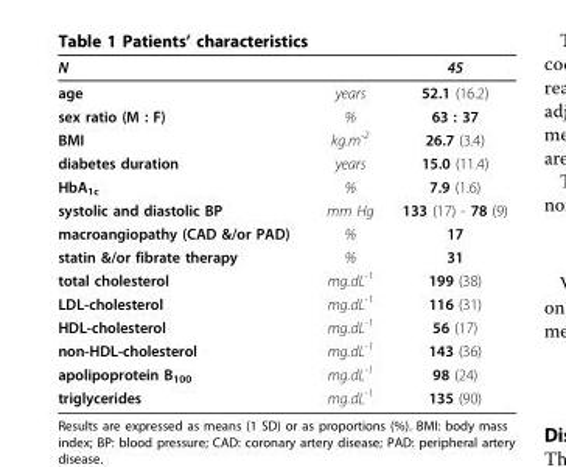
<table><thead><tr><td colspan="2">N</td><td rowspan="2">45 52.1 (16.2)</td></tr><tr><td>age</td><td>years</td></tr></thead><tbody><tr><td>sex ratio (M : F)</td><td>%</td><td>63 : 37</td></tr><tr><td>BMI</td><td>kg.m<sup>-2</sup></td><td>26.7 (3.4)</td></tr><tr><td>diabetes duration</td><td>years</td><td>15.0 (11.4)</td></tr><tr><td>HbA<sub>1c</sub></td><td>%</td><td>7.9 (1.6)</td></tr><tr><td>systolic and diastolic BP</td><td>mm Hg</td><td>133 (17) - 78 (9)</td></tr><tr><td>macroangiopathy (CAD &amp;/or PAD)</td><td>%</td><td>17</td></tr><tr><td>statin &amp;/or fibrate therapy</td><td>%</td><td>31</td></tr><tr><td>total cholesterol</td><td>mg.dL<sup>-1</sup></td><td>199 (38)</td></tr><tr><td>LDL-cholesterol</td><td>mg.dL<sup>-1</sup></td><td>116 (31)</td></tr><tr><td>HDL-cholesterol</td><td>mg.dL<sup>-1</sup></td><td>56 (17)</td></tr><tr><td>non-HDL-cholesterol</td><td>mg.dL<sup>-1</sup></td><td>143 (36)</td></tr><tr><td>apolipoprotein B<sub>100</sub></td><td>mg.dL<sup>-1</sup></td><td>98 (24)</td></tr><tr><td>triglycerides</td><td>mg.dL<sup>-1</sup></td><td>135 (90)</td></tr></tbody></table>